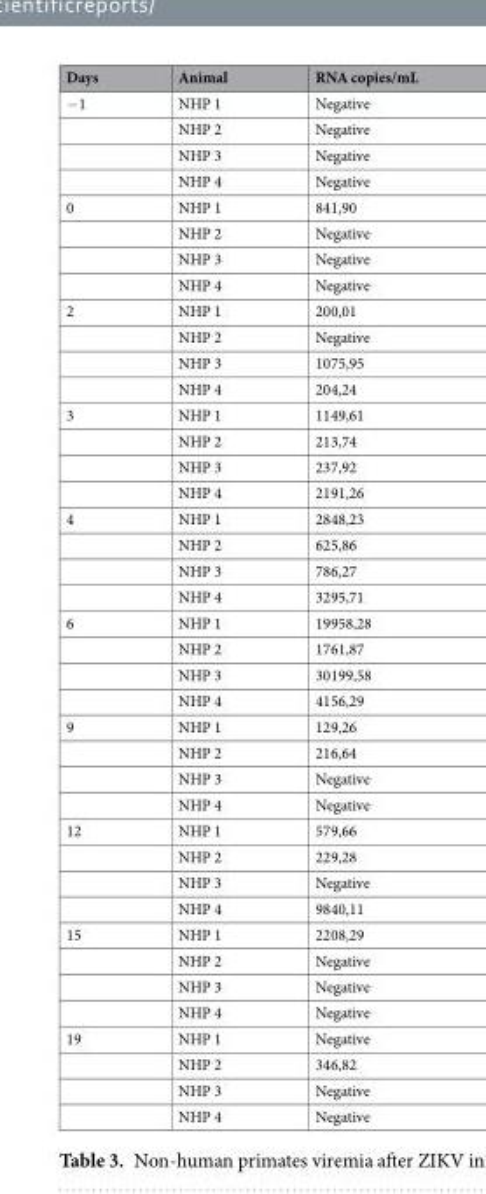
<table><thead><tr><td>Days</td><td>Animal</td><td>RNA copies/mL</td></tr></thead><tbody><tr><td rowspan="4">−1</td><td>NHP 1</td><td>Negative</td></tr><tr><td>NHP 2</td><td>Negative</td></tr><tr><td>NHP 3</td><td>Negative</td></tr><tr><td>NHP 4</td><td>Negative</td></tr><tr><td rowspan="4">0</td><td>NHP 1</td><td>841,90</td></tr><tr><td>NHP 2</td><td>Negative</td></tr><tr><td>NHP 3</td><td>Negative</td></tr><tr><td>NHP 4</td><td>Negative</td></tr><tr><td rowspan="4">2</td><td>NHP 1</td><td>200,01</td></tr><tr><td>NHP 2</td><td>Negative</td></tr><tr><td>NHP 3</td><td>1075,95</td></tr><tr><td>NHP 4</td><td>204,24</td></tr><tr><td rowspan="4">3</td><td>NHP 1</td><td>1149,61</td></tr><tr><td>NHP 2</td><td>213,74</td></tr><tr><td>NHP 3</td><td>237,92</td></tr><tr><td>NHP 4</td><td>2191,26</td></tr><tr><td rowspan="4">4</td><td>NHP 1</td><td>2848,23</td></tr><tr><td>NHP 2</td><td>625,86</td></tr><tr><td>NHP 3</td><td>786,27</td></tr><tr><td>NHP 4</td><td>3295,71</td></tr><tr><td rowspan="4">6</td><td>NHP 1</td><td>19958,28</td></tr><tr><td>NHP 2</td><td>1761,87</td></tr><tr><td>NHP 3</td><td>30199,58</td></tr><tr><td>NHP 4</td><td>4156,29</td></tr><tr><td rowspan="4">9</td><td>NHP 1</td><td>129,26</td></tr><tr><td>NHP 2</td><td>216,64</td></tr><tr><td>NHP 3</td><td>Negative</td></tr><tr><td>NHP 4</td><td>Negative</td></tr><tr><td rowspan="4">12</td><td>NHP 1</td><td>579,66</td></tr><tr><td>NHP 2</td><td>229,28</td></tr><tr><td>NHP 3</td><td>Negative</td></tr><tr><td>NHP 4</td><td>9840,11</td></tr><tr><td rowspan="4">15</td><td>NHP 1</td><td>2208,29</td></tr><tr><td>NHP 2</td><td>Negative</td></tr><tr><td>NHP 3</td><td>Negative</td></tr><tr><td>NHP 4</td><td>Negative</td></tr><tr><td rowspan="4">19</td><td>NHP 1</td><td>Negative</td></tr><tr><td>NHP 2</td><td>346,82</td></tr><tr><td>NHP 3</td><td>Negative</td></tr><tr><td>NHP 4</td><td>Negative</td></tr></tbody></table>